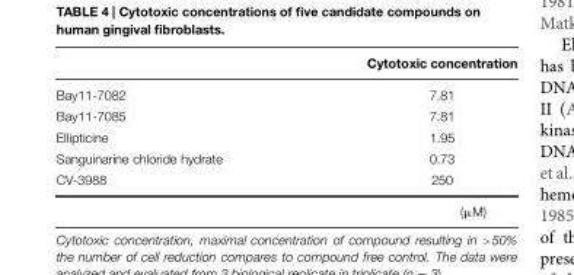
<table><thead><tr><td></td><td>Cytotoxic concentration</td></tr></thead><tbody><tr><td>Bay11-7082</td><td>7.81</td></tr><tr><td>Bay11-7085</td><td>7.81</td></tr><tr><td>Ellipticine</td><td>1.95</td></tr><tr><td>Sanguinarine chloride hydrate</td><td>0.73</td></tr><tr><td rowspan="2">CV-3988</td><td>250</td></tr><tr><td>(μM)</td></tr></tbody></table>